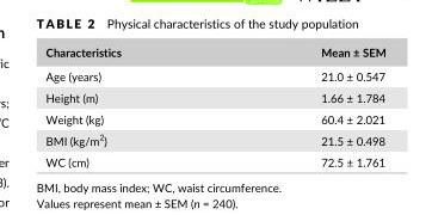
<table><thead><tr><td>Characteristics</td><td>Mean ± SEM</td></tr></thead><tbody><tr><td>Age (years)</td><td>21.0 ± 0.547</td></tr><tr><td>Height (m)</td><td>1.66 ± 1.784</td></tr><tr><td>Weight (kg)</td><td>60.4 ± 2.021</td></tr><tr><td>BMI (kg/m<sup>2</sup>)</td><td>21.5 ± 0.498</td></tr><tr><td>WC (cm)</td><td>72.5 ± 1.761</td></tr></tbody></table>